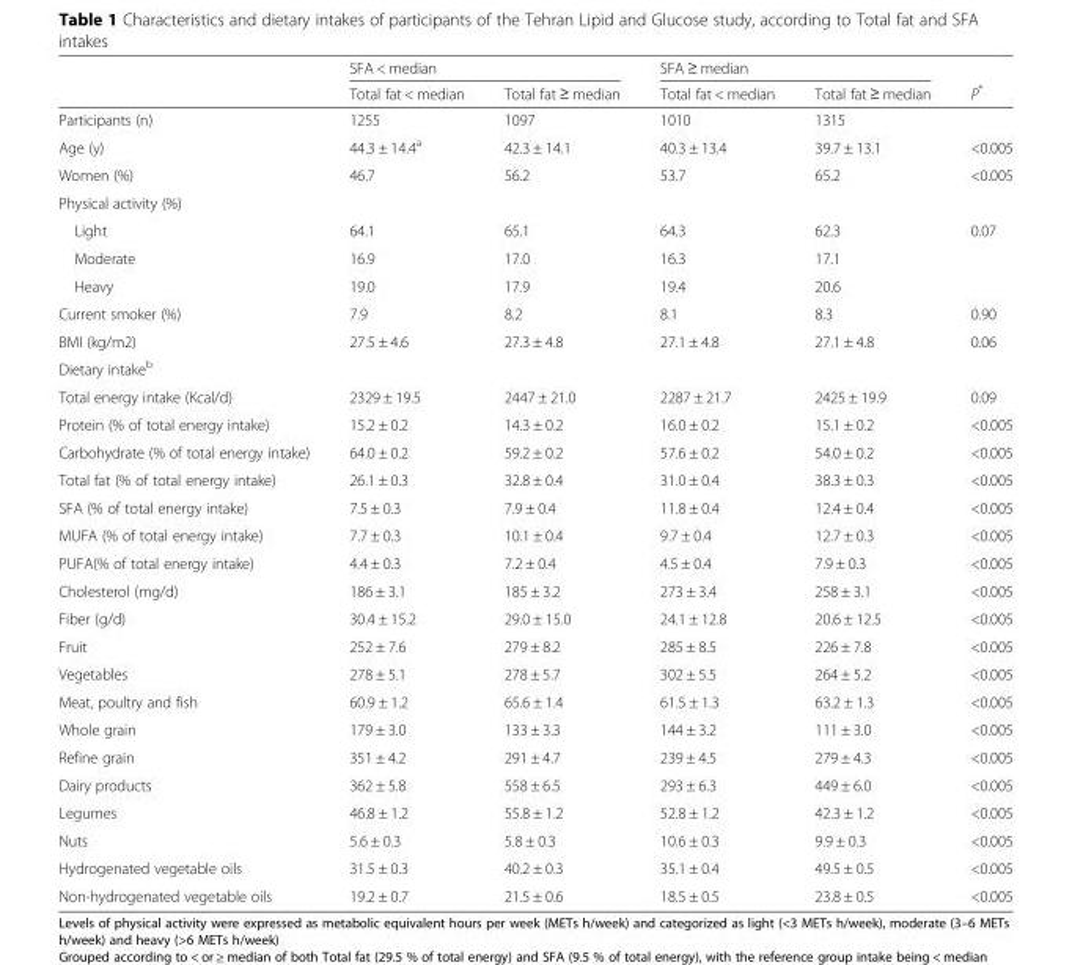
<table><thead><tr><td rowspan="2"></td><td colspan="2">SFA &lt; median</td><td colspan="2">SFA ≥ median</td><td rowspan="2">P*</td></tr><tr><td>Total fat &lt; median</td><td>Total fat ≥ median</td><td>Total fat &lt; median</td><td>Total fat ≥ median</td></tr></thead><tbody><tr><td>Participants (n)</td><td>1255</td><td>1097</td><td>1010</td><td>1315</td><td></td></tr><tr><td>Age (y)</td><td>44.3 ± 14.4<sup>a</sup></td><td>42.3 ± 14.1</td><td>40.3 ± 13.4</td><td>39.7 ± 13.1</td><td>&lt;0.005</td></tr><tr><td>Women (%)</td><td>46.7</td><td>56.2</td><td>53.7</td><td>65.2</td><td>&lt;0.005</td></tr><tr><td colspan="6">Physical activity (%)</td></tr><tr><td>Light</td><td>64.1</td><td>65.1</td><td>64.3</td><td>62.3</td><td>0.07</td></tr><tr><td>Moderate</td><td>16.9</td><td>17.0</td><td>16.3</td><td>17.1</td><td></td></tr><tr><td>Heavy</td><td>19.0</td><td>17.9</td><td>19.4</td><td>20.6</td><td></td></tr><tr><td>Current smoker (%)</td><td>7.9</td><td>8.2</td><td>8.1</td><td>8.3</td><td>0.90</td></tr><tr><td>BMI (kg/m2)</td><td>27.5 ± 4.6</td><td>27.3 ± 4.8</td><td>27.1 ± 4.8</td><td>27.1 ± 4.8</td><td>0.06</td></tr><tr><td colspan="6">Dietary intake<sup>b</sup></td></tr><tr><td>Total energy intake (Kcal/d)</td><td>2329 ± 19.5</td><td>2447 ± 21.0</td><td>2287 ± 21.7</td><td>2425 ± 19.9</td><td>0.09</td></tr><tr><td>Protein (% of total energy intake)</td><td>15.2 ± 0.2</td><td>14.3 ± 0.2</td><td>16.0 ± 0.2</td><td>15.1 ± 0.2</td><td>&lt;0.005</td></tr><tr><td>Carbohydrate (% of total energy intake)</td><td>64.0 ± 0.2</td><td>59.2 ± 0.2</td><td>57.6 ± 0.2</td><td>54.0 ± 0.2</td><td>&lt;0.005</td></tr><tr><td>Total fat (% of total energy intake)</td><td>26.1 ± 0.3</td><td>32.8 ± 0.4</td><td>31.0 ± 0.4</td><td>38.3 ± 0.3</td><td>&lt;0.005</td></tr><tr><td>SFA (% of total energy intake)</td><td>7.5 ± 0.3</td><td>7.9 ± 0.4</td><td>11.8 ± 0.4</td><td>12.4 ± 0.4</td><td>&lt;0.005</td></tr><tr><td>MUFA (% of total energy intake)</td><td>7.7 ± 0.3</td><td>10.1 ± 0.4</td><td>9.7 ± 0.4</td><td>12.7 ± 0.3</td><td>&lt;0.005</td></tr><tr><td>PUFA(% of total energy intake)</td><td>4.4 ± 0.3</td><td>7.2 ± 0.4</td><td>4.5 ± 0.4</td><td>7.9 ± 0.3</td><td>&lt;0.005</td></tr><tr><td>Cholesterol (mg/d)</td><td>186 ± 3.1</td><td>185 ± 3.2</td><td>273 ± 3.4</td><td>258 ± 3.1</td><td>&lt;0.005</td></tr><tr><td>Fiber (g/d)</td><td>30.4 ± 15.2</td><td>29.0 ± 15.0</td><td>24.1 ± 12.8</td><td>20.6 ± 12.5</td><td>&lt;0.005</td></tr><tr><td>Fruit</td><td>252 ± 7.6</td><td>279 ± 8.2</td><td>285 ± 8.5</td><td>226 ± 7.8</td><td>&lt;0.005</td></tr><tr><td>Vegetables</td><td>278 ± 5.1</td><td>278 ± 5.7</td><td>302 ± 5.5</td><td>264 ± 5.2</td><td>&lt;0.005</td></tr><tr><td>Meat, poultry and fish</td><td>60.9 ± 1.2</td><td>65.6 ± 1.4</td><td>61.5 ± 1.3</td><td>63.2 ± 1.3</td><td>&lt;0.005</td></tr><tr><td>Whole grain</td><td>179 ± 3.0</td><td>133 ± 3.3</td><td>144 ± 3.2</td><td>111 ± 3.0</td><td>&lt;0.005</td></tr><tr><td>Refine grain</td><td>351 ± 4.2</td><td>291 ± 4.7</td><td>239 ± 4.5</td><td>279 ± 4.3</td><td>&lt;0.005</td></tr><tr><td>Dairy products</td><td>362 ± 5.8</td><td>558 ± 6.5</td><td>293 ± 6.3</td><td>449 ± 6.0</td><td>&lt;0.005</td></tr><tr><td>Legumes</td><td>46.8 ± 1.2</td><td>55.8 ± 1.2</td><td>52.8 ± 1.2</td><td>42.3 ± 1.2</td><td>&lt;0.005</td></tr><tr><td>Nuts</td><td>5.6 ± 0.3</td><td>5.8 ± 0.3</td><td>10.6 ± 0.3</td><td>9.9 ± 0.3</td><td>&lt;0.005</td></tr><tr><td>Hydrogenated vegetable oils</td><td>31.5 ± 0.3</td><td>40.2 ± 0.3</td><td>35.1 ± 0.4</td><td>49.5 ± 0.5</td><td>&lt;0.005</td></tr><tr><td>Non-hydrogenated vegetable oils</td><td>19.2 ± 0.7</td><td>21.5 ± 0.6</td><td>18.5 ± 0.5</td><td>23.8 ± 0.5</td><td>&lt;0.005</td></tr></tbody></table>